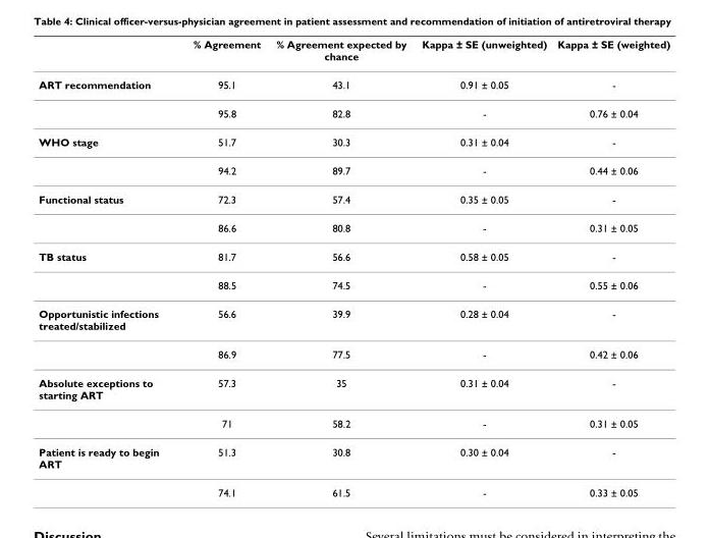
<table><thead><tr><td></td><td>% Agreement</td><td>% Agreement expected by chance</td><td>Kappa ± SE (unweighted)</td><td>Kappa ± SE (weighted)</td></tr></thead><tbody><tr><td rowspan="2">ART recommendation</td><td>95.1</td><td>43.1</td><td>0.91 ± 0.05</td><td>-</td></tr><tr><td>95.8</td><td>82.8</td><td>-</td><td>0.76 ± 0.04</td></tr><tr><td rowspan="2">WHO stage</td><td>51.7</td><td>30.3</td><td>0.31 ± 0.04</td><td>-</td></tr><tr><td>94.2</td><td>89.7</td><td>-</td><td>0.44 ± 0.06</td></tr><tr><td rowspan="2">Functional status</td><td>72.3</td><td>57.4</td><td>0.35 ± 0.05</td><td>-</td></tr><tr><td>86.6</td><td>80.8</td><td>-</td><td>0.31 ± 0.05</td></tr><tr><td rowspan="2">TB status</td><td>81.7</td><td>56.6</td><td>0.58 ± 0.05</td><td>-</td></tr><tr><td>88.5</td><td>74.5</td><td>-</td><td>0.55 ± 0.06</td></tr><tr><td rowspan="2">Opportunistic infections treated/stabilized</td><td>56.6</td><td>39.9</td><td>0.28 ± 0.04</td><td>-</td></tr><tr><td>86.9</td><td>77.5</td><td>-</td><td>0.42 ± 0.06</td></tr><tr><td rowspan="2">Absolute exceptions to starting ART</td><td>57.3</td><td>35</td><td>0.31 ± 0.04</td><td>-</td></tr><tr><td>71</td><td>58.2</td><td>-</td><td>0.31 ± 0.05</td></tr><tr><td rowspan="2">Patient is ready to begin ART</td><td>51.3</td><td>30.8</td><td>0.30 ± 0.04</td><td>-</td></tr><tr><td>74.1</td><td>61.5</td><td>-</td><td>0.33 ± 0.05</td></tr></tbody></table>